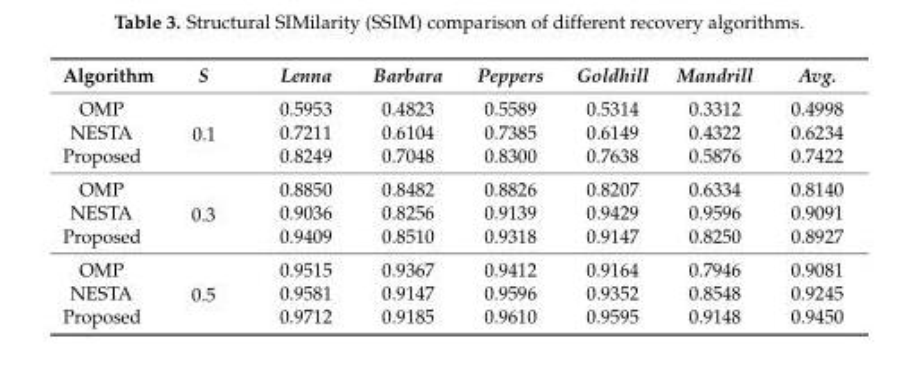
<table><thead><tr><td>Algorithm</td><td>S</td><td>Lenna</td><td>Barbara</td><td>Peppers</td><td>Goldhill</td><td>Mandrill</td><td>Avg.</td></tr></thead><tbody><tr><td>OMP</td><td rowspan="3">0.1</td><td>0.5953</td><td>0.4823</td><td>0.5589</td><td>0.5314</td><td>0.3312</td><td>0.4998</td></tr><tr><td>NESTA</td><td>0.7211</td><td>0.6104</td><td>0.7385</td><td>0.6149</td><td>0.4322</td><td>0.6234</td></tr><tr><td>Proposed</td><td>0.8249</td><td>0.7048</td><td>0.8300</td><td>0.7638</td><td>0.5876</td><td>0.7422</td></tr><tr><td>OMP</td><td rowspan="3">0.3</td><td>0.8850</td><td>0.8482</td><td>0.8826</td><td>0.8207</td><td>0.6334</td><td>0.8140</td></tr><tr><td>NESTA</td><td>0.9036</td><td>0.8256</td><td>0.9139</td><td>0.9429</td><td>0.9596</td><td>0.9091</td></tr><tr><td>Proposed</td><td>0.9409</td><td>0.8510</td><td>0.9318</td><td>0.9147</td><td>0.8250</td><td>0.8927</td></tr><tr><td>OMP</td><td rowspan="3">0.5</td><td>0.9515</td><td>0.9367</td><td>0.9412</td><td>0.9164</td><td>0.7946</td><td>0.9081</td></tr><tr><td>NESTA</td><td>0.9581</td><td>0.9147</td><td>0.9596</td><td>0.9352</td><td>0.8548</td><td>0.9245</td></tr><tr><td>Proposed</td><td>0.9712</td><td>0.9185</td><td>0.9610</td><td>0.9595</td><td>0.9148</td><td>0.9450</td></tr></tbody></table>